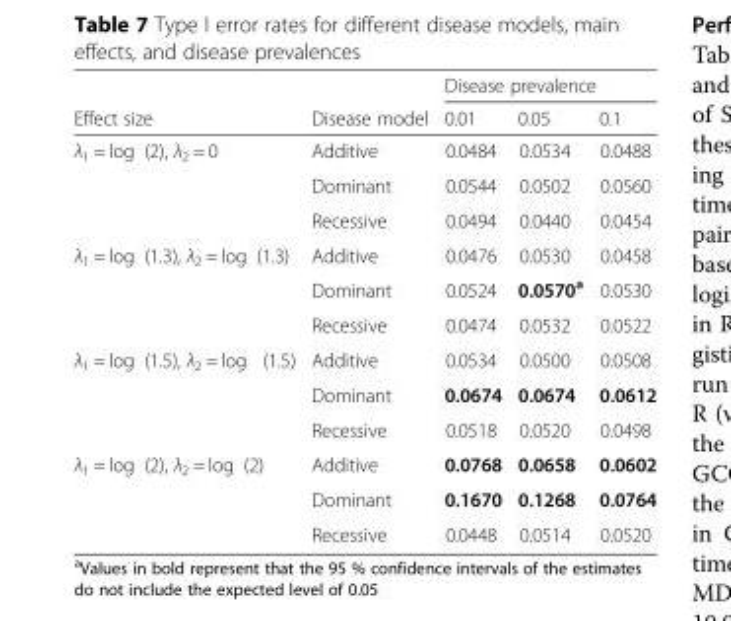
<table><thead><tr><td rowspan="2">Effect size</td><td rowspan="2">Disease model</td><td colspan="3">Disease prevalence</td></tr><tr><td>0.01</td><td>0.05</td><td>0.1</td></tr></thead><tbody><tr><td rowspan="3">λ<sub>1</sub> = log (2), λ<sub>2</sub> = 0</td><td>Additive</td><td>0.0484</td><td>0.0534</td><td>0.0488</td></tr><tr><td>Dominant</td><td>0.0544</td><td>0.0502</td><td>0.0560</td></tr><tr><td>Recessive</td><td>0.0494</td><td>0.0440</td><td>0.0454</td></tr><tr><td rowspan="3">λ<sub>1</sub> = log (1.3), λ<sub>2</sub> = log (1.3)</td><td>Additive</td><td>0.0476</td><td>0.0530</td><td>0.0458</td></tr><tr><td>Dominant</td><td>0.0524</td><td>0.0570<sup>a</sup></td><td>0.0530</td></tr><tr><td>Recessive</td><td>0.0474</td><td>0.0532</td><td>0.0522</td></tr><tr><td rowspan="3">λ<sub>1</sub> = log (1.5), λ<sub>2</sub> = log (1.5)</td><td>Additive</td><td>0.0534</td><td>0.0500</td><td>0.0508</td></tr><tr><td>Dominant</td><td>0.0674</td><td>0.0674</td><td>0.0612</td></tr><tr><td>Recessive</td><td>0.0518</td><td>0.0520</td><td>0.0498</td></tr><tr><td rowspan="3">λ<sub>1</sub> = log (2), λ<sub>2</sub> = log (2)</td><td>Additive</td><td>0.0768</td><td>0.0658</td><td>0.0602</td></tr><tr><td>Dominant</td><td>0.1670</td><td>0.1268</td><td>0.0764</td></tr><tr><td>Recessive</td><td>0.0448</td><td>0.0514</td><td>0.0520</td></tr></tbody></table>